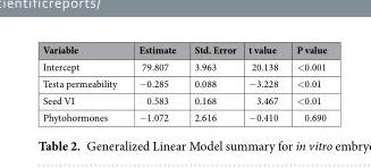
<table><thead><tr><td>Variable</td><td>Estimate</td><td>Std. Error</td><td>t value</td><td>P value</td></tr></thead><tbody><tr><td>Intercept</td><td>79.807</td><td>3.963</td><td>20.138</td><td>&lt;0.001</td></tr><tr><td>Testa permeability</td><td>−0.285</td><td>0.088</td><td>−3.228</td><td>&lt;0.01</td></tr><tr><td>Seed VI</td><td>0.583</td><td>0.168</td><td>3.467</td><td>&lt;0.01</td></tr><tr><td>Phytohormones</td><td>−1.072</td><td>2.616</td><td>−0.410</td><td>0.690</td></tr></tbody></table>